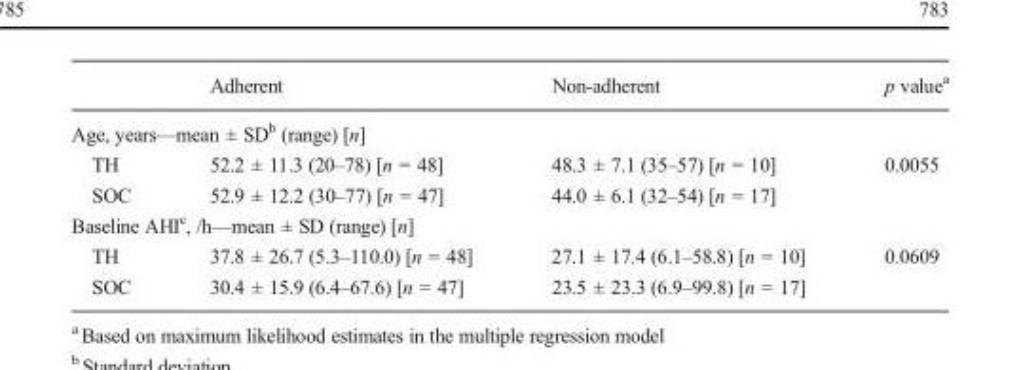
<table><thead><tr><td></td><td>Adherent</td><td>Non-adherent</td><td>p value<sup>a</sup></td></tr></thead><tbody><tr><td colspan="4">Age, years—mean ± SD<sup>b</sup> (range) [n]</td></tr><tr><td>TH</td><td>52.2 ± 11.3 (20–78) [n = 48]</td><td>48.3 ± 7.1 (35–57) [n = 10]</td><td>0.0055</td></tr><tr><td>SOC</td><td>52.9 ± 12.2 (30–77) [n = 47]</td><td>44.0 ± 6.1 (32–54) [n = 17]</td><td></td></tr><tr><td colspan="4">Baseline AHI<sup>c</sup>, /h—mean ± SD (range) [n]</td></tr><tr><td>TH</td><td>37.8 ± 26.7 (5.3–110.0) [n = 48]</td><td>27.1 ± 17.4 (6.1–58.8) [n = 10]</td><td>0.0609</td></tr><tr><td>SOC</td><td>30.4 ± 15.9 (6.4–67.6) [n = 47]</td><td>23.5 ± 23.3 (6.9–99.8) [n = 17]</td><td></td></tr></tbody></table>